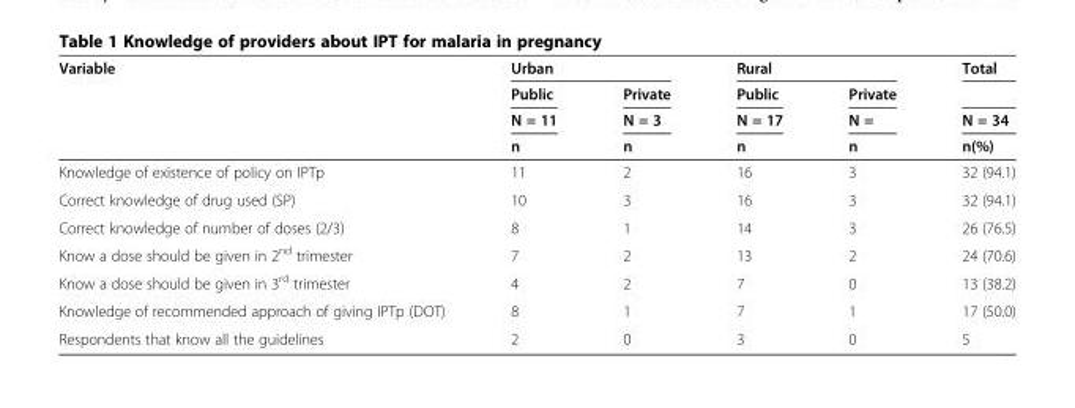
<table><thead><tr><td rowspan="4">Variable</td><td colspan="2">Urban</td><td colspan="2">Rural</td><td rowspan="4">Total N = 34 n(%)</td></tr><tr><td rowspan="3">Public N = 11 n</td><td rowspan="3">Private N = 3 n</td><td rowspan="3">Public N = 17 n</td><td rowspan="3">Private N = n</td></tr><tr></tr><tr></tr></thead><tbody><tr><td>Knowledge of existence of policy on IPTp</td><td>11</td><td>2</td><td>16</td><td>3</td><td>32 (94.1)</td></tr><tr><td>Correct knowledge of drug used (SP)</td><td>10</td><td>3</td><td>16</td><td>3</td><td>32 (94.1)</td></tr><tr><td>Correct knowledge of number of doses (2/3)</td><td>8</td><td>1</td><td>14</td><td>3</td><td>26 (76.5)</td></tr><tr><td>Know a dose should be given in 2<sup>nd</sup> trimester</td><td>7</td><td>2</td><td>13</td><td>2</td><td>24 (70.6)</td></tr><tr><td>Know a dose should be given in 3<sup>rd</sup> trimester</td><td>4</td><td>2</td><td>7</td><td>0</td><td>13 (38.2)</td></tr><tr><td>Knowledge of recommended approach of giving IPTp (DOT)</td><td>8</td><td>1</td><td>7</td><td>1</td><td>17 (50.0)</td></tr><tr><td>Respondents that know all the guidelines</td><td>2</td><td>0</td><td>3</td><td>0</td><td>5</td></tr></tbody></table>